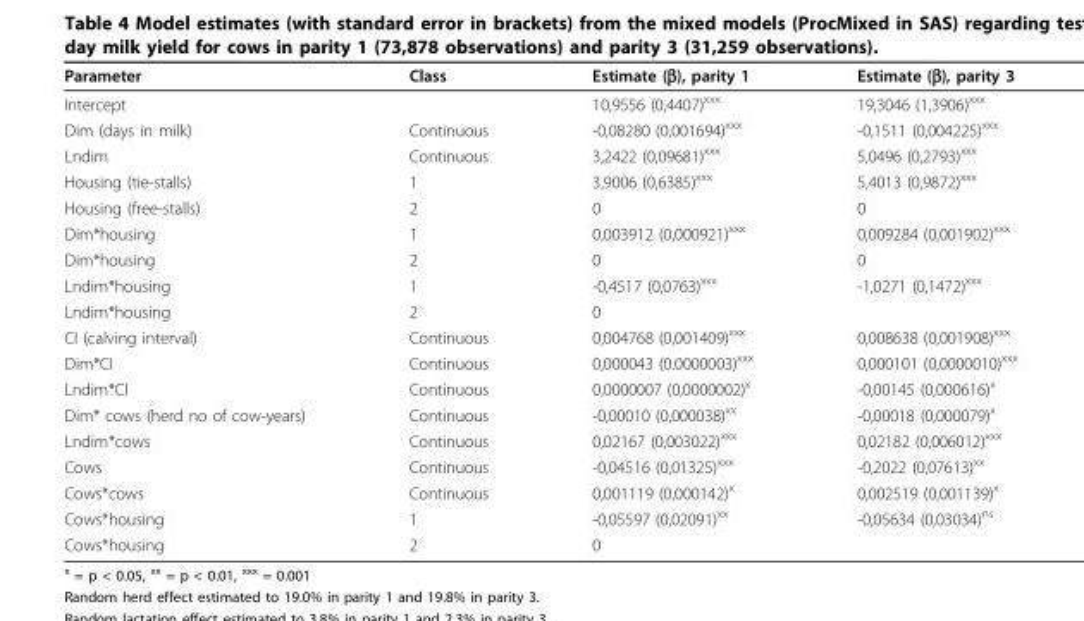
<table><thead><tr><td>Parameter</td><td>Class</td><td>Estimate (β), parity 1</td><td>Estimate (β), parity 3</td></tr></thead><tbody><tr><td>Intercept</td><td></td><td>10,9556 (0,4407)<sup>xxx</sup></td><td>19,3046 (1,3906)<sup>xxx</sup></td></tr><tr><td>Dim (days in milk)</td><td>Continuous</td><td>-0,08280 (0,001694)<sup>xxx</sup></td><td>-0,1511 (0,004225)<sup>xxx</sup></td></tr><tr><td>Lndim</td><td>Continuous</td><td>3,2422 (0,09681)<sup>xxx</sup></td><td>5,0496 (0,2793)<sup>xxx</sup></td></tr><tr><td>Housing (tie-stalls)</td><td>1</td><td>3,9006 (0,6385)<sup>xxx</sup></td><td>5,4013 (0,9872)<sup>xxx</sup></td></tr><tr><td>Housing (free-stalls)</td><td>2</td><td>0</td><td>0</td></tr><tr><td>Dim*housing</td><td>1</td><td>0,003912 (0,000921)<sup>xxx</sup></td><td>0,009284 (0,001902)<sup>xxx</sup></td></tr><tr><td>Dim*housing</td><td>2</td><td>0</td><td>0</td></tr><tr><td>Lndim*housing</td><td>1</td><td>-0,4517 (0,0763)<sup>xxx</sup></td><td>-1,0271 (0,1472)<sup>xxx</sup></td></tr><tr><td>Lndim*housing</td><td>2</td><td>0</td><td></td></tr><tr><td>CI (calving interval)</td><td>Continuous</td><td>0,004768 (0,001409)<sup>xxx</sup></td><td>0,008638 (0,001908)<sup>xxx</sup></td></tr><tr><td>Dim*CI</td><td>Continuous</td><td>0,000043 (0.0000003)<sup>xxx</sup></td><td>0,000101 (0,0000010)<sup>xxx</sup></td></tr><tr><td>Lndim*CI</td><td>Continuous</td><td>0,0000007 (0,0000002)<sup>x</sup></td><td>-0,00145 (0,000616)<sup>x</sup></td></tr><tr><td>Dim* cows (herd no of cow-years)</td><td>Continuous</td><td>-0,00010 (0,000038)<sup>xx</sup></td><td>-0,00018 (0,000079)<sup>x</sup></td></tr><tr><td>Lndim*cows</td><td>Continuous</td><td>0,02167 (0,003022)<sup>xxx</sup></td><td>0,02182 (0,006012)<sup>xxx</sup></td></tr><tr><td>Cows</td><td>Continuous</td><td>-0,04516 (0,01325)<sup>xxx</sup></td><td>-0,2022 (0,07613)<sup>xx</sup></td></tr><tr><td>Cows*cows</td><td>Continuous</td><td>0,001119 (0,000142)<sup>x</sup></td><td>0,002519 (0,001139)<sup>x</sup></td></tr><tr><td>Cows*housing</td><td>1</td><td>-0,05597 (0,02091)<sup>xx</sup></td><td>-0,05634 (0,03034)<sup>ns</sup></td></tr><tr><td>Cows*housing</td><td>2</td><td>0</td><td></td></tr></tbody></table>